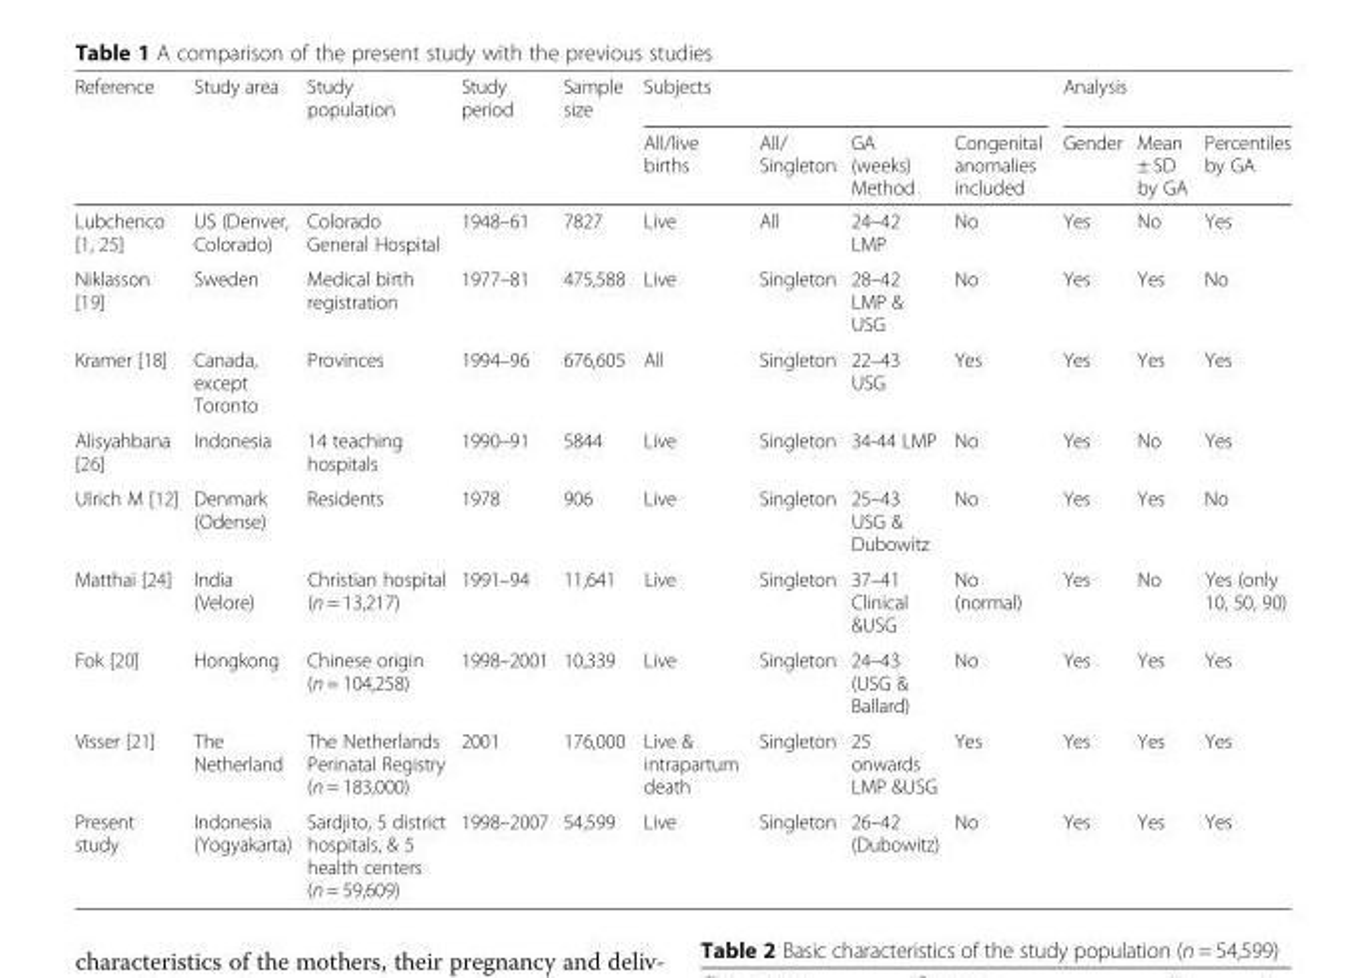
<table><thead><tr><td rowspan="2">Reference</td><td rowspan="2">Study area</td><td rowspan="2">Study population</td><td rowspan="2">Study period</td><td rowspan="2">Sample size</td><td colspan="4">Subjects</td><td colspan="3">Analysis</td></tr><tr><td>All/live births</td><td>All/ Singleton</td><td>GA (weeks) Method</td><td>Congenital anomalies included</td><td>Gender</td><td>Mean ± SD by GA</td><td>Percentiles by GA</td></tr></thead><tbody><tr><td>Lubchenco [1, 25]</td><td>US (Denver, Colorado)</td><td>Colorado General Hospital</td><td>1948–61</td><td>7827</td><td>Live</td><td>All</td><td>24–42 LMP</td><td>No</td><td>Yes</td><td>No</td><td>Yes</td></tr><tr><td>Niklasson [19]</td><td>Sweden</td><td>Medical birth registration</td><td>1977–81</td><td>475,588</td><td>Live</td><td>Singleton</td><td>28–42 LMP &amp; USG</td><td>No</td><td>Yes</td><td>Yes</td><td>No</td></tr><tr><td>Kramer [18]</td><td>Canada, except Toronto</td><td>Provinces</td><td>1994–96</td><td>676,605</td><td>All</td><td>Singleton</td><td>22–43 USG</td><td>Yes</td><td>Yes</td><td>Yes</td><td>Yes</td></tr><tr><td>Alisyahbana [26]</td><td>Indonesia</td><td>14 teaching hospitals</td><td>1990–91</td><td>5844</td><td>Live</td><td>Singleton</td><td>34-44 LMP</td><td>No</td><td>Yes</td><td>No</td><td>Yes</td></tr><tr><td>Ulrich M [12]</td><td>Denmark (Odense)</td><td>Residents</td><td>1978</td><td>906</td><td>Live</td><td>Singleton</td><td>25–43 USG &amp; Dubowitz</td><td>No</td><td>Yes</td><td>Yes</td><td>No</td></tr><tr><td>Matthai [24]</td><td>India (Velore)</td><td>Christian hospital (n = 13,217)</td><td>1991–94</td><td>11,641</td><td>Live</td><td>Singleton</td><td>37–41 Clinical &amp;USG</td><td>No (normal)</td><td>Yes</td><td>No</td><td>Yes (only 10, 50, 90)</td></tr><tr><td>Fok [20]</td><td>Hongkong</td><td>Chinese origin (n = 104,258)</td><td>1998–2001</td><td>10,339</td><td>Live</td><td>Singleton</td><td>24–43 (USG &amp; Ballard)</td><td>No</td><td>Yes</td><td>Yes</td><td>Yes</td></tr><tr><td>Visser [21]</td><td>The Netherland</td><td>The Netherlands Perinatal Registry (n = 183,000)</td><td>2001</td><td>176,000</td><td>Live &amp; intrapartum death</td><td>Singleton</td><td>25 onwards LMP &amp;USG</td><td>Yes</td><td>Yes</td><td>Yes</td><td>Yes</td></tr><tr><td>Present study</td><td>Indonesia (Yogyakarta)</td><td>Sardjito, 5 district hospitals, &amp; 5 health centers (n = 59,609)</td><td>1998–2007</td><td>54,599</td><td>Live</td><td>Singleton</td><td>26–42 (Dubowitz)</td><td>No</td><td>Yes</td><td>Yes</td><td>Yes</td></tr></tbody></table>